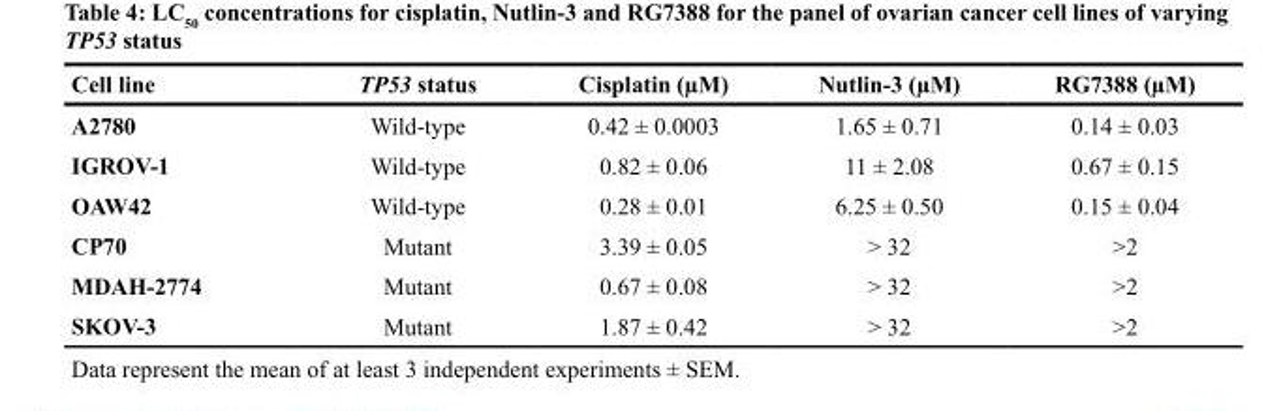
<table><thead><tr><td>Cell line</td><td>TP53 status</td><td>Cisplatin (µM)</td><td>Nutlin-3 (µM)</td><td>RG7388 (µM)</td></tr></thead><tbody><tr><td>A2780</td><td>Wild-type</td><td>0.42 ± 0.0003</td><td>1.65 ± 0.71</td><td>0.14 ± 0.03</td></tr><tr><td>IGROV-1</td><td>Wild-type</td><td>0.82 ± 0.06</td><td>11 ± 2.08</td><td>0.67 ± 0.15</td></tr><tr><td>OAW42</td><td>Wild-type</td><td>0.28 ± 0.01</td><td>6.25 ± 0.50</td><td>0.15 ± 0.04</td></tr><tr><td>CP70</td><td>Mutant</td><td>3.39 ± 0.05</td><td>˃ 32</td><td>&gt;2</td></tr><tr><td>MDAH-2774</td><td>Mutant</td><td>0.67 ± 0.08</td><td>˃ 32</td><td>&gt;2</td></tr><tr><td>SKOV-3</td><td>Mutant</td><td>1.87 ± 0.42</td><td>˃ 32</td><td>&gt;2</td></tr></tbody></table>